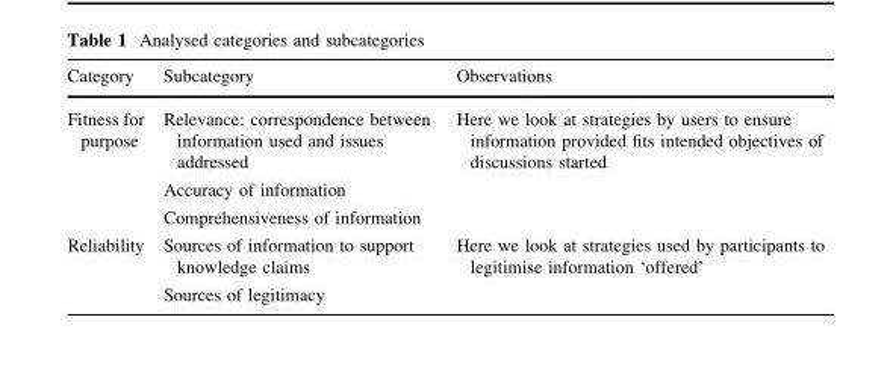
<table><thead><tr><td>Category</td><td>Subcategory</td><td>Observations</td></tr></thead><tbody><tr><td>Fitness for purpose</td><td>Relevance: correspondence between information used and issues addressed Accuracy of information Comprehensiveness of information</td><td>Here we look at strategies by users to ensure information provided fits intended objectives of discussions started</td></tr><tr><td>Reliability</td><td>Sources of information to support knowledge claims Sources of legitimacy</td><td>Here we look at strategies used by participants to legitimise information ‘offered’</td></tr></tbody></table>